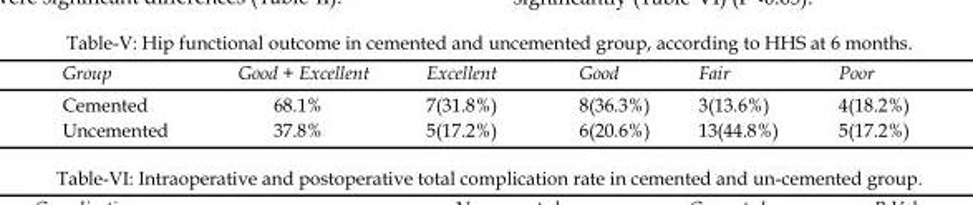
<table><thead><tr><td>Group</td><td>Good + Excellent</td><td>Excellent</td><td>Good</td><td>Fair</td><td>Poor</td></tr></thead><tbody><tr><td>Cemented</td><td>68.1%</td><td>7(31.8%)</td><td>8(36.3%)</td><td>3(13.6%)</td><td>4(18.2%)</td></tr><tr><td>Uncemented</td><td>37.8%</td><td>5(17.2%)</td><td>6(20.6%)</td><td>13(44.8%)</td><td>5(17.2%)</td></tr></tbody></table>